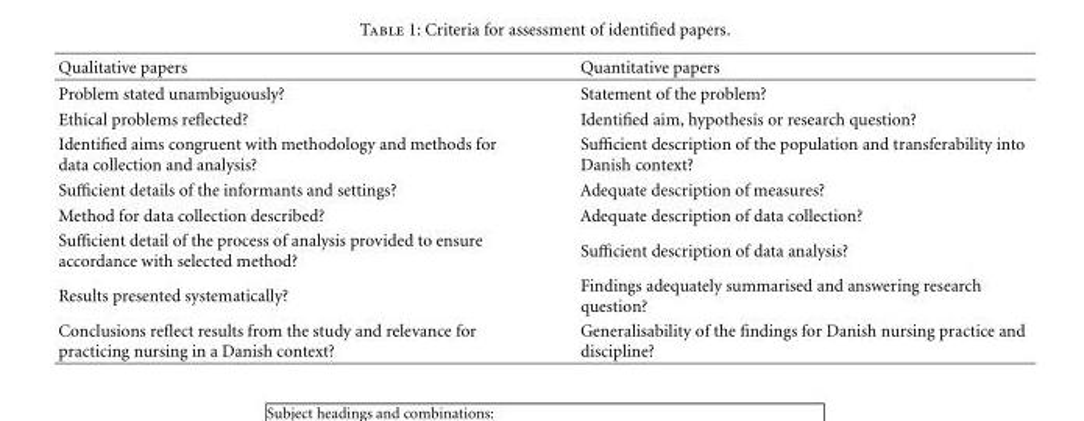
<table><thead><tr><td>Qualitative papers</td><td>Quantitative papers</td></tr></thead><tbody><tr><td>Problem stated unambiguously?</td><td>Statement of the problem?</td></tr><tr><td>Ethical problems reflected?</td><td>Identified aim, hypothesis or research question?</td></tr><tr><td>Identified aims congruent with methodology and methods for data collection and analysis?</td><td>Sufficient description of the population and transferability into Danish context?</td></tr><tr><td>Sufficient details of the informants and settings?</td><td>Adequate description of measures?</td></tr><tr><td>Method for data collection described?</td><td>Adequate description of data collection?</td></tr><tr><td>Sufficient detail of the process of analysis provided to ensure accordance with selected method?</td><td>Sufficient description of data analysis?</td></tr><tr><td>Results presented systematically?</td><td>Findings adequately summarised and answering research question?</td></tr><tr><td>Conclusions reflect results from the study and relevance for practicing nursing in a Danish context?</td><td>Generalisability of the findings for Danish nursing practice and discipline?</td></tr></tbody></table>